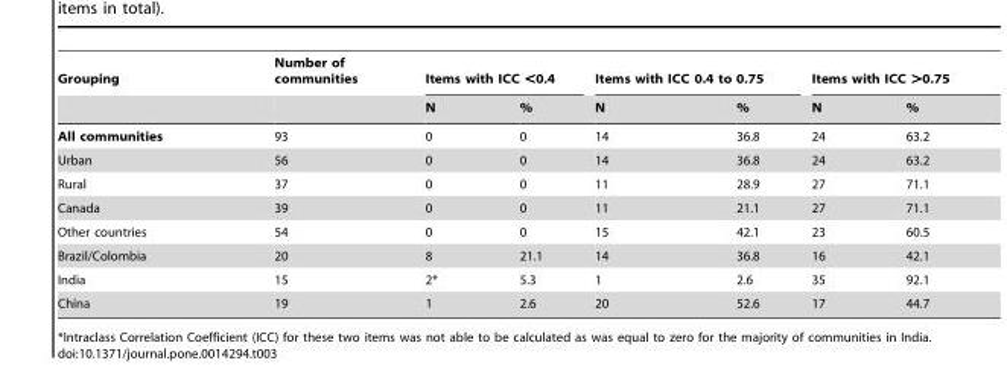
<table><thead><tr><td rowspan="2">Grouping</td><td rowspan="2">Number of communities</td><td colspan="2">Items with ICC &lt;0.4</td><td colspan="2">Items with ICC 0.4 to 0.75</td><td colspan="2">Items with ICC &gt;0.75</td></tr><tr><td>N</td><td>%</td><td>N</td><td>%</td><td>N</td><td>%</td></tr></thead><tbody><tr><td>All communities</td><td>93</td><td>0</td><td>0</td><td>14</td><td>36.8</td><td>24</td><td>63.2</td></tr><tr><td>Urban</td><td>56</td><td>0</td><td>0</td><td>14</td><td>36.8</td><td>24</td><td>63.2</td></tr><tr><td>Rural</td><td>37</td><td>0</td><td>0</td><td>11</td><td>28.9</td><td>27</td><td>71.1</td></tr><tr><td>Canada</td><td>39</td><td>0</td><td>0</td><td>11</td><td>21.1</td><td>27</td><td>71.1</td></tr><tr><td>Other countries</td><td>54</td><td>0</td><td>0</td><td>15</td><td>42.1</td><td>23</td><td>60.5</td></tr><tr><td>Brazil/Colombia</td><td>20</td><td>8</td><td>21.1</td><td>14</td><td>36.8</td><td>16</td><td>42.1</td></tr><tr><td>India</td><td>15</td><td>2*</td><td>5.3</td><td>1</td><td>2.6</td><td>35</td><td>92.1</td></tr><tr><td>China</td><td>19</td><td>1</td><td>2.6</td><td>20</td><td>52.6</td><td>17</td><td>44.7</td></tr></tbody></table>